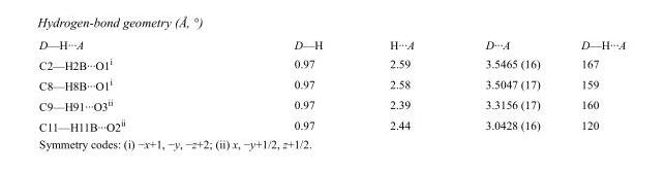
<table><tbody><tr><td>D—H···A</td><td>D—H</td><td>H···A</td><td>D···A</td><td>D—H···A</td></tr><tr><td>C2—H2B···O1<sup>i</sup></td><td>0.97</td><td>2.59</td><td>3.5465 (16)</td><td>167</td></tr><tr><td>C8—H8B···O1<sup>i</sup></td><td>0.97</td><td>2.58</td><td>3.5047 (17)</td><td>159</td></tr><tr><td>C9—H91···O3<sup>ii</sup></td><td>0.97</td><td>2.39</td><td>3.3156 (17)</td><td>160</td></tr><tr><td>C11—H11B···O2<sup>ii</sup></td><td>0.97</td><td>2.44</td><td>3.0428 (16)</td><td>120</td></tr></tbody></table>